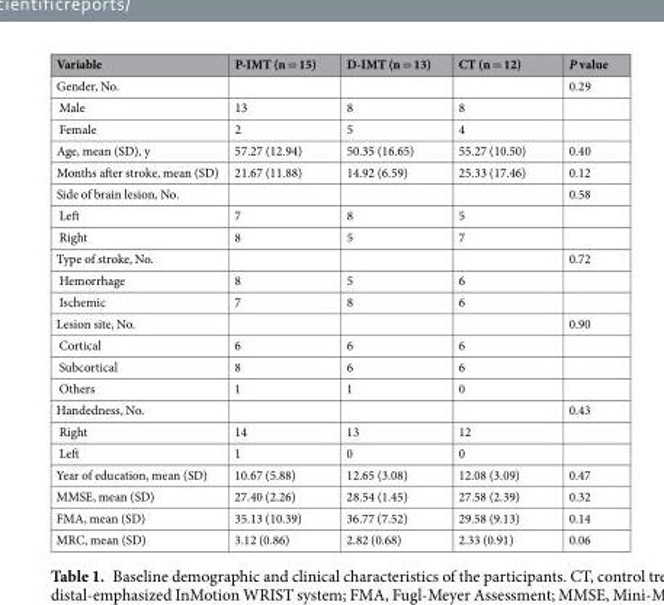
<table><thead><tr><td>Variable</td><td>P-IMT (n = 15)</td><td>D-IMT (n = 13)</td><td>CT (n = 12)</td><td>P value</td></tr></thead><tbody><tr><td>Gender, No.</td><td></td><td></td><td></td><td>0.29</td></tr><tr><td>Male</td><td>13</td><td>8</td><td>8</td><td></td></tr><tr><td>Female</td><td>2</td><td>5</td><td>4</td><td></td></tr><tr><td>Age, mean (SD), y</td><td>57.27 (12.94)</td><td>50.35 (16.65)</td><td>55.27 (10.50)</td><td>0.40</td></tr><tr><td>Months after stroke, mean (SD)</td><td>21.67 (11.88)</td><td>14.92 (6.59)</td><td>25.33 (17.46)</td><td>0.12</td></tr><tr><td>Side of brain lesion, No.</td><td></td><td></td><td></td><td>0.58</td></tr><tr><td>Left</td><td>7</td><td>8</td><td>5</td><td></td></tr><tr><td>Right</td><td>8</td><td>5</td><td>7</td><td></td></tr><tr><td>Type of stroke, No.</td><td></td><td></td><td></td><td>0.72</td></tr><tr><td>Hemorrhage</td><td>8</td><td>5</td><td>6</td><td></td></tr><tr><td>Ischemic</td><td>7</td><td>8</td><td>6</td><td></td></tr><tr><td>Lesion site, No.</td><td></td><td></td><td></td><td>0.90</td></tr><tr><td>Cortical</td><td>6</td><td>6</td><td>6</td><td></td></tr><tr><td>Subcortical</td><td>8</td><td>6</td><td>6</td><td></td></tr><tr><td>Others</td><td>1</td><td>1</td><td>0</td><td></td></tr><tr><td>Handedness, No.</td><td></td><td></td><td></td><td>0.43</td></tr><tr><td>Right</td><td>14</td><td>13</td><td>12</td><td></td></tr><tr><td>Left</td><td>1</td><td>0</td><td>0</td><td></td></tr><tr><td>Year of education, mean (SD)</td><td>10.67 (5.88)</td><td>12.65 (3.08)</td><td>12.08 (3.09)</td><td>0.47</td></tr><tr><td>MMSE, mean (SD)</td><td>27.40 (2.26)</td><td>28.54 (1.45)</td><td>27.58 (2.39)</td><td>0.32</td></tr><tr><td>FMA, mean (SD)</td><td>35.13 (10.39)</td><td>36.77 (7.52)</td><td>29.58 (9.13)</td><td>0.14</td></tr><tr><td>MRC, mean (SD)</td><td>3.12 (0.86)</td><td>2.82 (0.68)</td><td>2.33 (0.91)</td><td>0.06</td></tr></tbody></table>